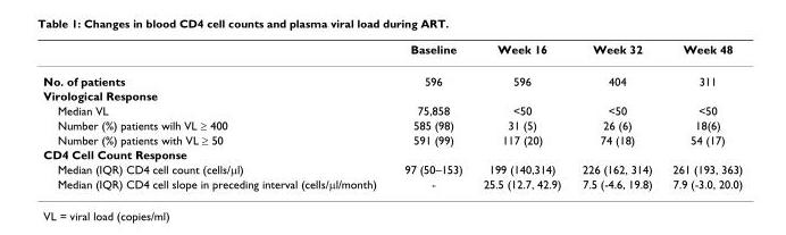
<table><thead><tr><td></td><td>Baseline</td><td>Week 16</td><td>Week 32</td><td>Week 48</td></tr></thead><tbody><tr><td>No. of patients</td><td>596</td><td>596</td><td>404</td><td>311</td></tr><tr><td colspan="5">Virological Response</td></tr><tr><td>Median VL</td><td>75,858</td><td>&lt;50</td><td>&lt;50</td><td>&lt;50</td></tr><tr><td>Number (%) patients wilh VL ≥ 400</td><td>585 (98)</td><td>31 (5)</td><td>26 (6)</td><td>18(6)</td></tr><tr><td>Number (%) patients with VL ≥ 50</td><td>591 (99)</td><td>117 (20)</td><td>74 (18)</td><td>54 (17)</td></tr><tr><td colspan="5">CD4 Cell Count Response</td></tr><tr><td>Median (IQR) CD4 cell count (cells/µl)</td><td>97 (50–153)</td><td>199 (140,314)</td><td>226 (162, 314)</td><td>261 (193, 363)</td></tr><tr><td>Median (IQR) CD4 cell slope in preceding interval (cells/µl/month)</td><td>-</td><td>25.5 (12.7, 42.9)</td><td>7.5 (-4.6, 19.8)</td><td>7.9 (-3.0, 20.0)</td></tr></tbody></table>